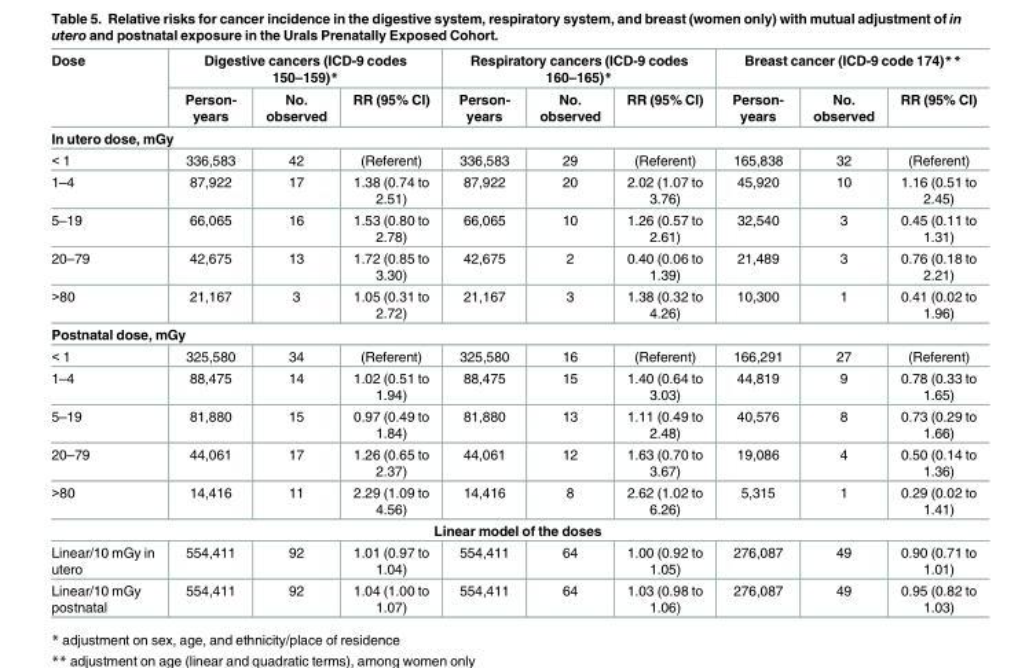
<table><thead><tr><td rowspan="2">Dose</td><td colspan="3">Digestive cancers (ICD-9 codes 150–159)*</td><td colspan="3">Respiratory cancers (ICD-9 codes 160–165)*</td><td colspan="3">Breast cancer (ICD-9 code 174)**</td></tr><tr><td>Person- years</td><td>No. observed</td><td>RR (95% CI)</td><td>Person- years</td><td>No. observed</td><td>RR (95% CI)</td><td>Person- years</td><td>No. observed</td><td>RR (95% CI)</td></tr></thead><tbody><tr><td colspan="10">In utero dose, mGy</td></tr><tr><td>&lt; 1</td><td>336,583</td><td>42</td><td>(Referent)</td><td>336,583</td><td>29</td><td>(Referent)</td><td>165,838</td><td>32</td><td>(Referent)</td></tr><tr><td>1–4</td><td>87,922</td><td>17</td><td>1.38 (0.74 to 2.51)</td><td>87,922</td><td>20</td><td>2.02 (1.07 to 3.76)</td><td>45,920</td><td>10</td><td>1.16 (0.51 to 2.45)</td></tr><tr><td>5–19</td><td>66,065</td><td>16</td><td>1.53 (0.80 to 2.78)</td><td>66,065</td><td>10</td><td>1.26 (0.57 to 2.61)</td><td>32,540</td><td>3</td><td>0.45 (0.11 to 1.31)</td></tr><tr><td>20–79</td><td>42,675</td><td>13</td><td>1.72 (0.85 to 3.30)</td><td>42,675</td><td>2</td><td>0.40 (0.06 to 1.39)</td><td>21,489</td><td>3</td><td>0.76 (0.18 to 2.21)</td></tr><tr><td>&gt;80</td><td>21,167</td><td>3</td><td>1.05 (0.31 to 2.72)</td><td>21,167</td><td>3</td><td>1.38 (0.32 to 4.26)</td><td>10,300</td><td>1</td><td>0.41 (0.02 to 1.96)</td></tr><tr><td colspan="10">Postnatal dose, mGy</td></tr><tr><td>&lt; 1</td><td>325,580</td><td>34</td><td>(Referent)</td><td>325,580</td><td>16</td><td>(Referent)</td><td>166,291</td><td>27</td><td>(Referent)</td></tr><tr><td>1–4</td><td>88,475</td><td>14</td><td>1.02 (0.51 to 1.94)</td><td>88,475</td><td>15</td><td>1.40 (0.64 to 3.03)</td><td>44,819</td><td>9</td><td>0.78 (0.33 to 1.65)</td></tr><tr><td>5–19</td><td>81,880</td><td>15</td><td>0.97 (0.49 to 1.84)</td><td>81,880</td><td>13</td><td>1.11 (0.49 to 2.48)</td><td>40,576</td><td>8</td><td>0.73 (0.29 to 1.66)</td></tr><tr><td>20–79</td><td>44,061</td><td>17</td><td>1.26 (0.65 to 2.37)</td><td>44,061</td><td>12</td><td>1.63 (0.70 to 3.67)</td><td>19,086</td><td>4</td><td>0.50 (0.14 to 1.36)</td></tr><tr><td>&gt;80</td><td>14,416</td><td>11</td><td>2.29 (1.09 to 4.56)</td><td>14,416</td><td>8</td><td>2.62 (1.02 to 6.26)</td><td>5,315</td><td>1</td><td>0.29 (0.02 to 1.41)</td></tr><tr><td colspan="10">Linear model of the doses</td></tr><tr><td>Linear/10 mGy in utero</td><td>554,411</td><td>92</td><td>1.01 (0.97 to 1.04)</td><td>554,411</td><td>64</td><td>1.00 (0.92 to 1.05)</td><td>276,087</td><td>49</td><td>0.90 (0.71 to 1.01)</td></tr><tr><td>Linear/10 mGy postnatal</td><td>554,411</td><td>92</td><td>1.04 (1.00 to 1.07)</td><td>554,411</td><td>64</td><td>1.03 (0.98 to 1.06)</td><td>276,087</td><td>49</td><td>0.95 (0.82 to 1.03)</td></tr></tbody></table>